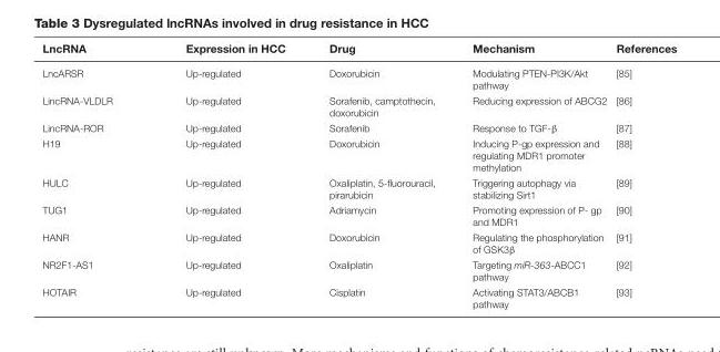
<table><thead><tr><td>LncRNA</td><td>Expression in HCC</td><td>Drug</td><td>Mechanism</td><td>References</td></tr></thead><tbody><tr><td>LncARSR</td><td>Up-regulated</td><td>Doxorubicin</td><td>Modulating PTEN-PI3K/Akt pathway</td><td>[85]</td></tr><tr><td>LincRNA-VLDLR</td><td>Up-regulated</td><td>Sorafenib, camptothecin, doxorubicin</td><td>Reducing expression of ABCG2</td><td>[86]</td></tr><tr><td>LincRNA-ROR</td><td>Up-regulated</td><td>Sorafenib</td><td>Response to TGF-β</td><td>[87]</td></tr><tr><td>H19</td><td>Up-regulated</td><td>Doxorubicin</td><td>Inducing P-gp expression and regulating MDR1 promoter methylation</td><td>[88]</td></tr><tr><td>HULC</td><td>Up-regulated</td><td>Oxaliplatin, 5-fluorouracil, pirarubicin</td><td>Triggering autophagy via stabilizing Sirt1</td><td>[89]</td></tr><tr><td>TUG1</td><td>Up-regulated</td><td>Adriamycin</td><td>Promoting expression of P- gp and MDR1</td><td>[90]</td></tr><tr><td>HANR</td><td>Up-regulated</td><td>Doxorubicin</td><td>Regulating the phosphorylation of GSK3β</td><td>[91]</td></tr><tr><td>NR2F1-AS1</td><td>Up-regulated</td><td>Oxaliplatin</td><td>Targeting miR-363-ABCC1 pathway</td><td>[92]</td></tr><tr><td>HOTAIR</td><td>Up-regulated</td><td>Cisplatin</td><td>Activating STAT3/ABCB1 pathway</td><td>[93]</td></tr></tbody></table>